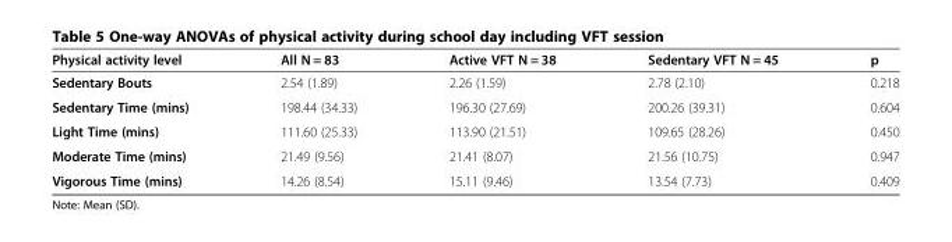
<table><thead><tr><td>Physical activity level</td><td>All N = 83</td><td>Active VFT N = 38</td><td>Sedentary VFT N = 45</td><td>p</td></tr></thead><tbody><tr><td>Sedentary Bouts</td><td>2.54 (1.89)</td><td>2.26 (1.59)</td><td>2.78 (2.10)</td><td>0.218</td></tr><tr><td>Sedentary Time (mins)</td><td>198.44 (34.33)</td><td>196.30 (27.69)</td><td>200.26 (39.31)</td><td>0.604</td></tr><tr><td>Light Time (mins)</td><td>111.60 (25.33)</td><td>113.90 (21.51)</td><td>109.65 (28.26)</td><td>0.450</td></tr><tr><td>Moderate Time (mins)</td><td>21.49 (9.56)</td><td>21.41 (8.07)</td><td>21.56 (10.75)</td><td>0.947</td></tr><tr><td>Vigorous Time (mins)</td><td>14.26 (8.54)</td><td>15.11 (9.46)</td><td>13.54 (7.73)</td><td>0.409</td></tr></tbody></table>